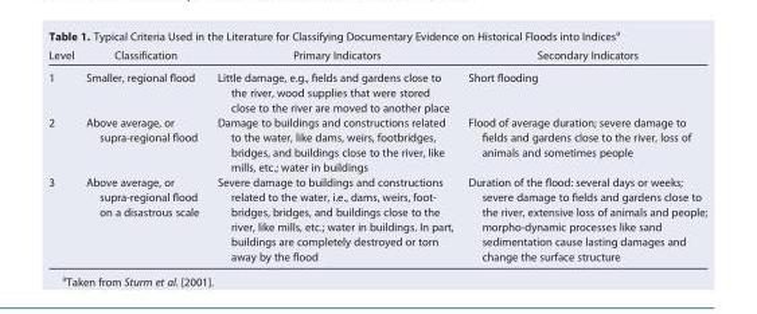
<table><thead><tr><td>Level</td><td>Classification</td><td>Primary Indicators</td><td>Secondary Indicators</td></tr></thead><tbody><tr><td>1</td><td>Smaller, regional flood</td><td>Little damage, e.g., fields and gardens close to the river, wood supplies that were stored close to the river are moved to another place</td><td>Short flooding</td></tr><tr><td>2</td><td>Above average, or supra-regional flood</td><td>Damage to buildings and constructions related to the water, like dams, weirs, footbridges, bridges, and buildings close to the river, like mills, etc.; water in buildings</td><td>Flood of average duration; severe damage to fields and gardens close to the river, loss of animals and sometimes people</td></tr><tr><td>3</td><td>Above average, or supra-regional flood on a disastrous scale</td><td>Severe damage to buildings and constructions related to the water, i.e., dams, weirs, foot- bridges, bridges, and buildings close to the river, like mills, etc.; water in buildings. In part, buildings are completely destroyed or torn away by the flood</td><td>Duration of the flood: several days or weeks; severe damage to fields and gardens close to the river, extensive loss of animals and people; morpho-dynamic processes like sand sedimentation cause lasting damages and change the surface structure</td></tr></tbody></table>